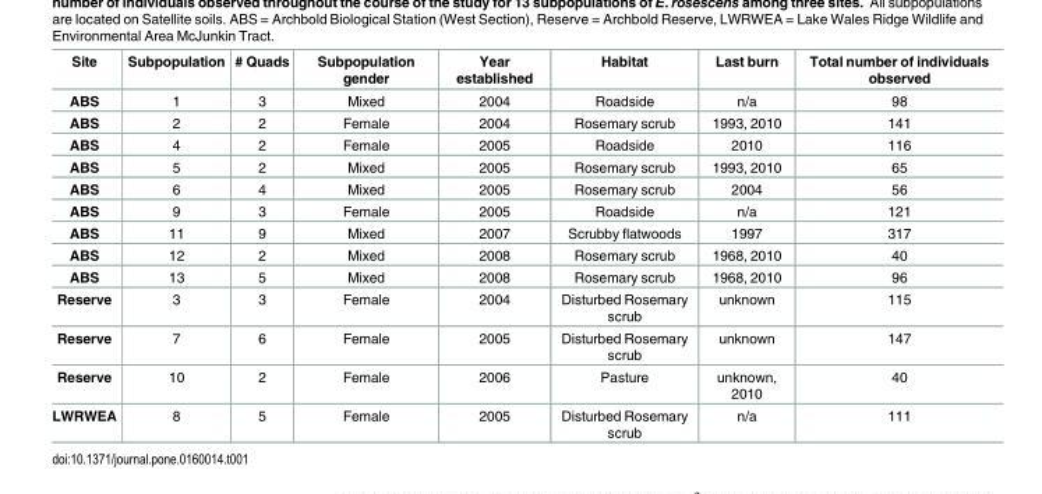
<table><thead><tr><td>Site</td><td>Subpopulation</td><td># Quads</td><td>Subpopulation gender</td><td>Year established</td><td>Habitat</td><td>Last burn</td><td>Total number of individuals observed</td></tr></thead><tbody><tr><td>ABS</td><td>1</td><td>3</td><td>Mixed</td><td>2004</td><td>Roadside</td><td>n/a</td><td>98</td></tr><tr><td>ABS</td><td>2</td><td>2</td><td>Female</td><td>2004</td><td>Rosemary scrub</td><td>1993, 2010</td><td>141</td></tr><tr><td>ABS</td><td>4</td><td>2</td><td>Female</td><td>2005</td><td>Roadside</td><td>2010</td><td>116</td></tr><tr><td>ABS</td><td>5</td><td>2</td><td>Mixed</td><td>2005</td><td>Rosemary scrub</td><td>1993, 2010</td><td>65</td></tr><tr><td>ABS</td><td>6</td><td>4</td><td>Mixed</td><td>2005</td><td>Rosemary scrub</td><td>2004</td><td>56</td></tr><tr><td>ABS</td><td>9</td><td>3</td><td>Female</td><td>2005</td><td>Roadside</td><td>n/a</td><td>121</td></tr><tr><td>ABS</td><td>11</td><td>9</td><td>Mixed</td><td>2007</td><td>Scrubby flatwoods</td><td>1997</td><td>317</td></tr><tr><td>ABS</td><td>12</td><td>2</td><td>Mixed</td><td>2008</td><td>Rosemary scrub</td><td>1968, 2010</td><td>40</td></tr><tr><td>ABS</td><td>13</td><td>5</td><td>Mixed</td><td>2008</td><td>Rosemary scrub</td><td>1968, 2010</td><td>96</td></tr><tr><td>Reserve</td><td>3</td><td>3</td><td>Female</td><td>2004</td><td>Disturbed Rosemary scrub</td><td>unknown</td><td>115</td></tr><tr><td>Reserve</td><td>7</td><td>6</td><td>Female</td><td>2005</td><td>Disturbed Rosemary scrub</td><td>unknown</td><td>147</td></tr><tr><td>Reserve</td><td>10</td><td>2</td><td>Female</td><td>2006</td><td>Pasture</td><td>unknown, 2010</td><td>40</td></tr><tr><td>LWRWEA</td><td>8</td><td>5</td><td>Female</td><td>2005</td><td>Disturbed Rosemary scrub</td><td>n/a</td><td>111</td></tr></tbody></table>